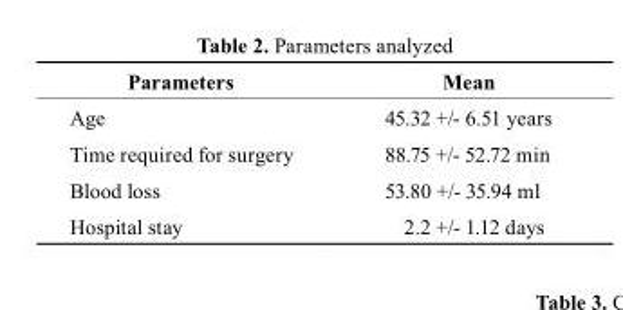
<table><thead><tr><td>Parameters</td><td>Mean</td></tr></thead><tbody><tr><td>Age</td><td>45.32 +/- 6.51 years</td></tr><tr><td>Time required for surgery</td><td>88.75 +/- 52.72 min</td></tr><tr><td>Blood loss</td><td>53.80 +/- 35.94 ml</td></tr><tr><td>Hospital stay</td><td>2.2 +/- 1.12 days</td></tr></tbody></table>